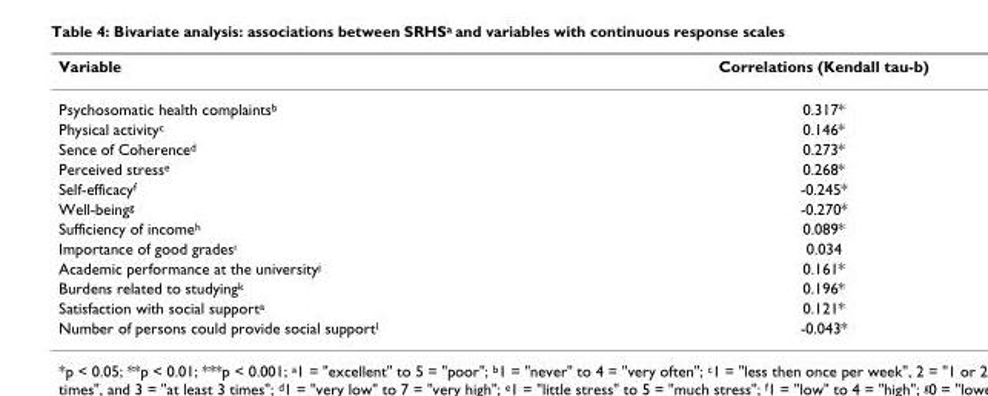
<table><thead><tr><td>Variable</td><td>Correlations (Kendall tau-b)</td></tr></thead><tbody><tr><td>Psychosomatic health complaints<sup>b</sup></td><td>0.317*</td></tr><tr><td>Physical activity<sup>c</sup></td><td>0.146*</td></tr><tr><td>Sence of Coherence<sup>d</sup></td><td>0.273*</td></tr><tr><td>Perceived stress<sup>e</sup></td><td>0.268*</td></tr><tr><td>Self-efficacy<sup>f</sup></td><td>-0.245*</td></tr><tr><td>Well-being<sup>g</sup></td><td>-0.270*</td></tr><tr><td>Sufficiency of income<sup>h</sup></td><td>0.089*</td></tr><tr><td>Importance of good grades<sup>i</sup></td><td>0.034</td></tr><tr><td>Academic performance at the university<sup>j</sup></td><td>0.161*</td></tr><tr><td>Burdens related to studying<sup>k</sup></td><td>0.196*</td></tr><tr><td>Satisfaction with social support<sup>a</sup></td><td>0.121*</td></tr><tr><td>Number of persons could provide social support<sup>l</sup></td><td>-0.043*</td></tr></tbody></table>